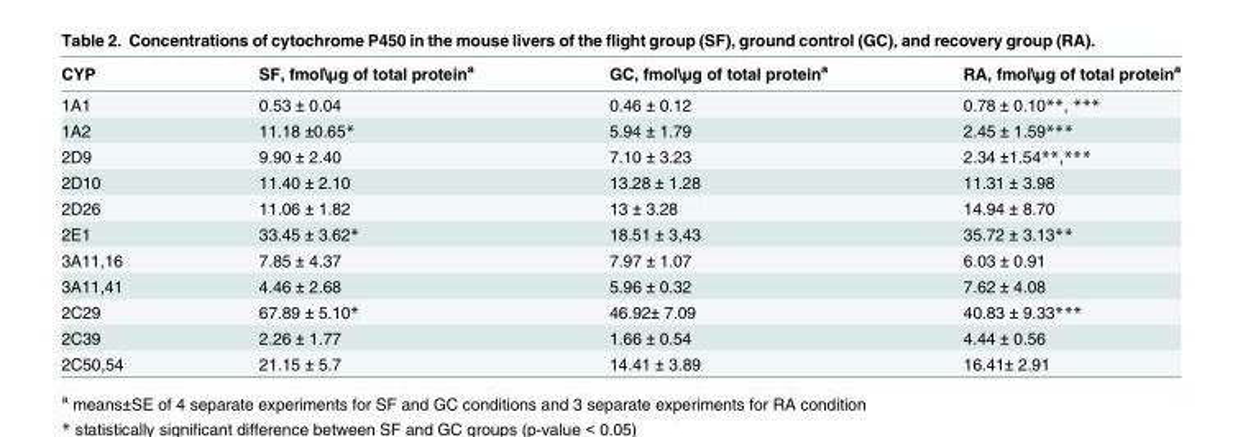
<table><thead><tr><td>CYP</td><td>SF, fmol\\u03bcg of total proteina</td><td>GC, fmol\\u03bcg of total proteina</td><td>RA, fmol\\u03bcg of total proteina</td></tr></thead><tbody><tr><td>1A1</td><td>0.53 ± 0.04</td><td>0.46 ± 0.12</td><td>0.78 ± 0.10**, ***</td></tr><tr><td>1A2</td><td>11.18 ±0.65*</td><td>5.94 ± 1.79</td><td>2.45 ± 1.59***</td></tr><tr><td>2D9</td><td>9.90 ± 2.40</td><td>7.10 ± 3.23</td><td>2.34 ±1.54**,***</td></tr><tr><td>2D10</td><td>11.40 ± 2.10</td><td>13.28 ± 1.28</td><td>11.31 ± 3.98</td></tr><tr><td>2D26</td><td>11.06 ± 1.82</td><td>13 ± 3.28</td><td>14.94 ± 8.70</td></tr><tr><td>2E1</td><td>33.45 ± 3.62*</td><td>18.51 ± 3,43</td><td>35.72 ± 3.13**</td></tr><tr><td>3A11,16</td><td>7.85 ± 4.37</td><td>7.97 ± 1.07</td><td>6.03 ± 0.91</td></tr><tr><td>3A11,41</td><td>4.46 ± 2.68</td><td>5.96 ± 0.32</td><td>7.62 ± 4.08</td></tr><tr><td>2C29</td><td>67.89 ± 5.10*</td><td>46.92± 7.09</td><td>40.83 ± 9.33***</td></tr><tr><td>2C39</td><td>2.26 ± 1.77</td><td>1.66 ± 0.54</td><td>4.44 ± 0.56</td></tr><tr><td>2C50,54</td><td>21.15 ± 5.7</td><td>14.41 ± 3.89</td><td>16.41± 2.91</td></tr></tbody></table>